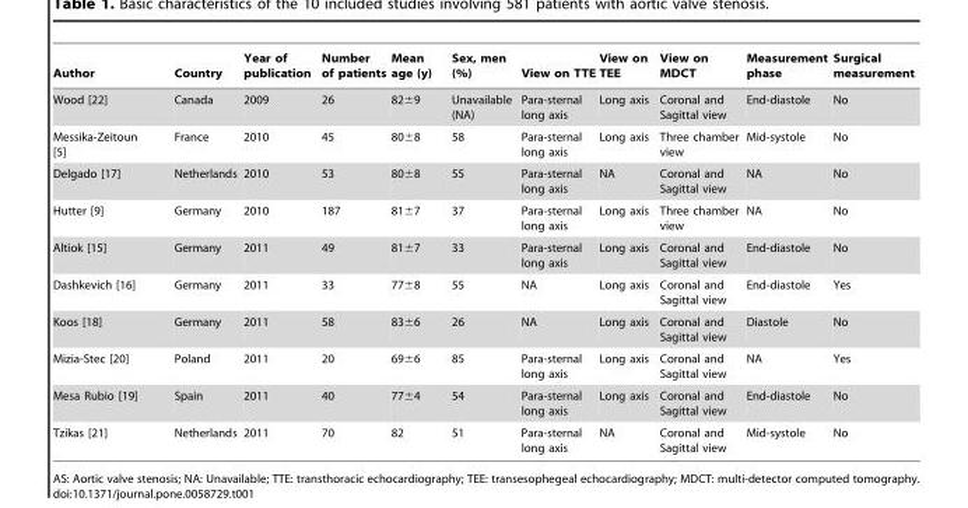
<table><thead><tr><td>Author</td><td>Country</td><td>Year of publication</td><td>Number of patients</td><td>Mean age (y)</td><td>Sex, men (%)</td><td>View on TTE</td><td>View on TEE</td><td>View on MDCT</td><td>Measurement phase</td><td>Surgical measurement</td></tr></thead><tbody><tr><td>Wood [22]</td><td>Canada</td><td>2009</td><td>26</td><td>82±9</td><td>Unavailable (NA)</td><td>Para-sternal long axis</td><td>Long axis</td><td>Coronal and Sagittal view</td><td>End-diastole</td><td>No</td></tr><tr><td>Messika-Zeitoun [5]</td><td>France</td><td>2010</td><td>45</td><td>80±8</td><td>58</td><td>Para-sternal long axis</td><td>Long axis</td><td>Three chamber view</td><td>Mid-systole</td><td>No</td></tr><tr><td>Delgado [17]</td><td>Netherlands</td><td>2010</td><td>53</td><td>80±8</td><td>55</td><td>Para-sternal long axis</td><td>NA</td><td>Coronal and Sagittal view</td><td>NA</td><td>No</td></tr><tr><td>Hutter [9]</td><td>Germany</td><td>2010</td><td>187</td><td>81±7</td><td>37</td><td>Para-sternal long axis</td><td>Long axis</td><td>Three chamber view</td><td>NA</td><td>No</td></tr><tr><td>Altiok [15]</td><td>Germany</td><td>2011</td><td>49</td><td>81±7</td><td>33</td><td>Para-sternal long axis</td><td>Long axis</td><td>Coronal and Sagittal view</td><td>End-diastole</td><td>No</td></tr><tr><td>Dashkevich [16]</td><td>Germany</td><td>2011</td><td>33</td><td>77±8</td><td>55</td><td>NA</td><td>Long axis</td><td>Coronal and Sagittal view</td><td>End-diastole</td><td>Yes</td></tr><tr><td>Koos [18]</td><td>Germany</td><td>2011</td><td>58</td><td>83±6</td><td>26</td><td>NA</td><td>Long axis</td><td>Coronal and Sagittal view</td><td>Diastole</td><td>No</td></tr><tr><td>Mizia-Stec [20]</td><td>Poland</td><td>2011</td><td>20</td><td>69±6</td><td>85</td><td>Para-sternal long axis</td><td>Long axis</td><td>Coronal and Sagittal view</td><td>NA</td><td>Yes</td></tr><tr><td>Mesa Rubio [19]</td><td>Spain</td><td>2011</td><td>40</td><td>77±4</td><td>54</td><td>Para-sternal long axis</td><td>Long axis</td><td>Coronal and Sagittal view</td><td>End-diastole</td><td>No</td></tr><tr><td>Tzikas [21]</td><td>Netherlands</td><td>2011</td><td>70</td><td>82</td><td>51</td><td>Para-sternal long axis</td><td>NA</td><td>Coronal and Sagittal view</td><td>Mid-systole</td><td>No</td></tr></tbody></table>